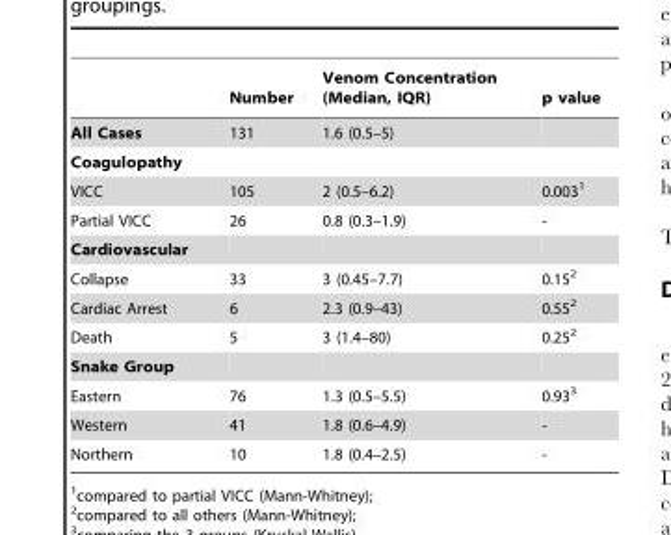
<table><thead><tr><td></td><td>Number</td><td>Venom Concentration (Median, IQR)</td><td>p value</td></tr></thead><tbody><tr><td>All Cases</td><td>131</td><td>1.6 (0.5–5)</td><td></td></tr><tr><td colspan="4">Coagulopathy</td></tr><tr><td>VICC</td><td>105</td><td>2 (0.5–6.2)</td><td>0.003<sup>1</sup></td></tr><tr><td>Partial VICC</td><td>26</td><td>0.8 (0.3–1.9)</td><td>-</td></tr><tr><td colspan="4">Cardiovascular</td></tr><tr><td>Collapse</td><td>33</td><td>3 (0.45–7.7)</td><td>0.15<sup>2</sup></td></tr><tr><td>Cardiac Arrest</td><td>6</td><td>2.3 (0.9–43)</td><td>0.55<sup>2</sup></td></tr><tr><td>Death</td><td>5</td><td>3 (1.4–80)</td><td>0.25<sup>2</sup></td></tr><tr><td colspan="4">Snake Group</td></tr><tr><td>Eastern</td><td>76</td><td>1.3 (0.5–5.5)</td><td>0.93<sup>3</sup></td></tr><tr><td>Western</td><td>41</td><td>1.8 (0.6–4.9)</td><td>-</td></tr><tr><td>Northern</td><td>10</td><td>1.8 (0.4–2.5)</td><td>-</td></tr></tbody></table>